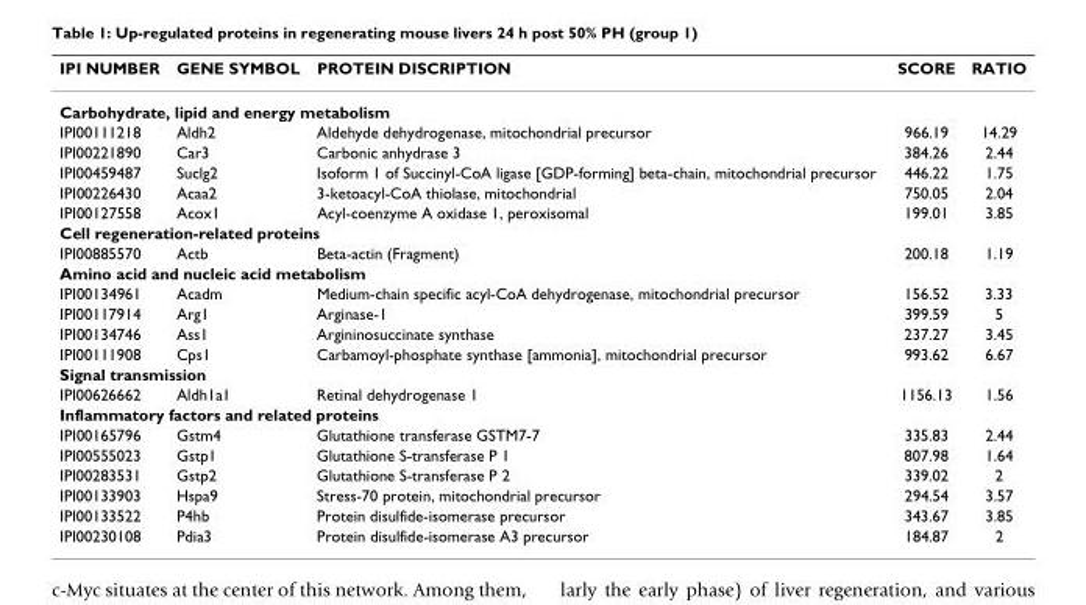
<table><thead><tr><td>IPI NUMBER</td><td>GENE SYMBOL</td><td>PROTEIN DISCRIPTION</td><td>SCORE</td><td>RATIO</td></tr></thead><tbody><tr><td colspan="5">Carbohydrate, lipid and energy metabolism</td></tr><tr><td>IPI00111218</td><td>Aldh2</td><td>Aldehyde dehydrogenase, mitochondrial precursor</td><td>966.19</td><td>14.29</td></tr><tr><td>IPI00221890</td><td>Car3</td><td>Carbonic anhydrase 3</td><td>384.26</td><td>2.44</td></tr><tr><td>IPI00459487</td><td>Suclg2</td><td>Isoform 1 of Succinyl-CoA ligase [GDP-forming] beta-chain, mitochondrial precursor</td><td>446.22</td><td>1.75</td></tr><tr><td>IPI00226430</td><td>Acaa2</td><td>3-ketoacyl-CoA thiolase, mitochondrial</td><td>750.05</td><td>2.04</td></tr><tr><td>IPI00127558</td><td>Acox1</td><td>Acyl-coenzyme A oxidase 1, peroxisomal</td><td>199.01</td><td>3.85</td></tr><tr><td colspan="5">Cell regeneration-related proteins</td></tr><tr><td>IPI00885570</td><td>Actb</td><td>Beta-actin (Fragment)</td><td>200.18</td><td>1.19</td></tr><tr><td colspan="5">Amino acid and nucleic acid metabolism</td></tr><tr><td>IPI00134961</td><td>Acadm</td><td>Medium-chain specific acyl-CoA dehydrogenase, mitochondrial precursor</td><td>156.52</td><td>3.33</td></tr><tr><td>IPI00117914</td><td>Arg1</td><td>Arginase-1</td><td>399.59</td><td>5</td></tr><tr><td>IPI00134746</td><td>Ass1</td><td>Argininosuccinate synthase</td><td>237.27</td><td>3.45</td></tr><tr><td>IPI00111908</td><td>Cps1</td><td>Carbamoyl-phosphate synthase [ammonia], mitochondrial precursor</td><td>993.62</td><td>6.67</td></tr><tr><td colspan="5">Signal transmission</td></tr><tr><td>IPI00626662</td><td>Aldh1a1</td><td>Retinal dehydrogenase 1</td><td>1156.13</td><td>1.56</td></tr><tr><td colspan="5">Inflammatory factors and related proteins</td></tr><tr><td>IPI00165796</td><td>Gstm4</td><td>Glutathione transferase GSTM7-7</td><td>335.83</td><td>2.44</td></tr><tr><td>IPI00555023</td><td>Gstp1</td><td>Glutathione S-transferase P 1</td><td>807.98</td><td>1.64</td></tr><tr><td>IPI00283531</td><td>Gstp2</td><td>Glutathione S-transferase P 2</td><td>339.02</td><td>2</td></tr><tr><td>IPI00133903</td><td>Hspa9</td><td>Stress-70 protein, mitochondrial precursor</td><td>294.54</td><td>3.57</td></tr><tr><td>IPI00133522</td><td>P4hb</td><td>Protein disulfide-isomerase precursor</td><td>343.67</td><td>3.85</td></tr><tr><td>IPI00230108</td><td>Pdia3</td><td>Protein disulfide-isomerase A3 precursor</td><td>184.87</td><td>2</td></tr></tbody></table>